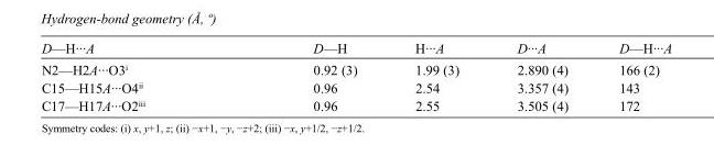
<table><tbody><tr><td>D—H···A</td><td>D—H</td><td>H···A</td><td>D···A</td><td>D—H···A</td></tr><tr><td>N2—H2A···O3<sup>i</sup></td><td>0.92 (3)</td><td>1.99 (3)</td><td>2.890 (4)</td><td>166 (2)</td></tr><tr><td>C15—H15A···O4<sup>ii</sup></td><td>0.96</td><td>2.54</td><td>3.357 (4)</td><td>143</td></tr><tr><td>C17—H17A···O2<sup>iii</sup></td><td>0.96</td><td>2.55</td><td>3.505 (4)</td><td>172</td></tr></tbody></table>